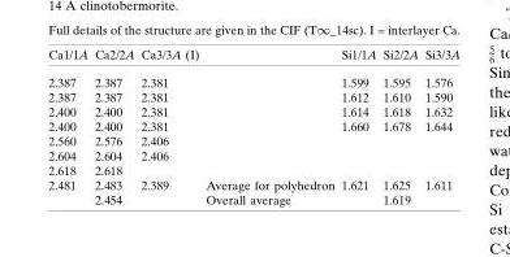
<table><thead><tr><td>Ca1/1A</td><td>Ca2/2A</td><td>Ca3/3A (I)</td><td></td><td>Si1/1A</td><td>Si2/2A</td><td>Si3/3A</td></tr></thead><tbody><tr><td>2.387</td><td>2.387</td><td>2.381</td><td></td><td>1.599</td><td>1.595</td><td>1.576</td></tr><tr><td>2.387</td><td>2.387</td><td>2.381</td><td></td><td>1.612</td><td>1.610</td><td>1.590</td></tr><tr><td>2.400</td><td>2.400</td><td>2.381</td><td></td><td>1.614</td><td>1.618</td><td>1.632</td></tr><tr><td>2.400</td><td>2.400</td><td>2.381</td><td></td><td>1.660</td><td>1.678</td><td>1.644</td></tr><tr><td>2.560</td><td>2.576</td><td>2.406</td><td></td><td></td><td></td><td></td></tr><tr><td>2.604</td><td>2.604</td><td>2.406</td><td></td><td></td><td></td><td></td></tr><tr><td>2.618</td><td>2.618</td><td></td><td></td><td></td><td></td><td></td></tr><tr><td rowspan="2">2.481</td><td>2.483</td><td>2.389</td><td>Average for polyhedron</td><td>1.621</td><td>1.625</td><td>1.611</td></tr><tr><td>2.454</td><td></td><td>Overall average</td><td></td><td>1.619</td><td></td></tr></tbody></table>